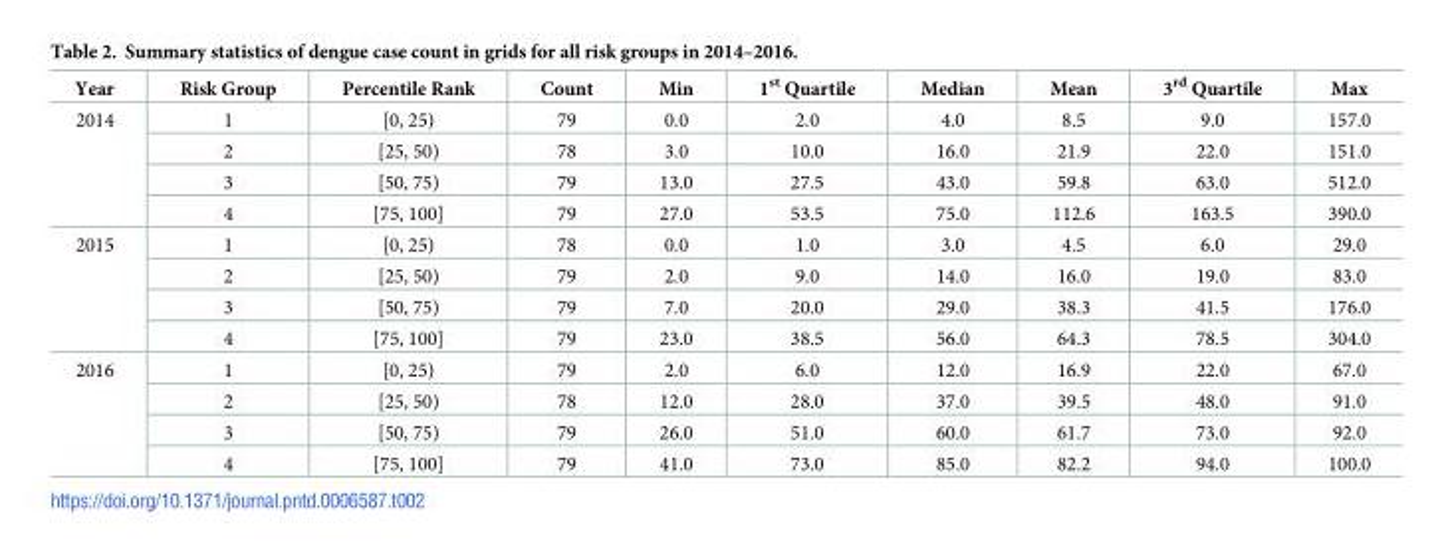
<table><thead><tr><td>Year</td><td>Risk Group</td><td>Percentile Rank</td><td>Count</td><td>Min</td><td>1<sup>st</sup> Quartile</td><td>Median</td><td>Mean</td><td>3<sup>rd</sup> Quartile</td><td>Max</td></tr></thead><tbody><tr><td rowspan="4">2014</td><td>1</td><td>[0, 25)</td><td>79</td><td>0.0</td><td>2.0</td><td>4.0</td><td>8.5</td><td>9.0</td><td>157.0</td></tr><tr><td>2</td><td>[25, 50)</td><td>78</td><td>3.0</td><td>10.0</td><td>16.0</td><td>21.9</td><td>22.0</td><td>151.0</td></tr><tr><td>3</td><td>[50, 75)</td><td>79</td><td>13.0</td><td>27.5</td><td>43.0</td><td>59.8</td><td>63.0</td><td>512.0</td></tr><tr><td>4</td><td>[75, 100]</td><td>79</td><td>27.0</td><td>53.5</td><td>75.0</td><td>112.6</td><td>163.5</td><td>390.0</td></tr><tr><td rowspan="4">2015</td><td>1</td><td>[0, 25)</td><td>78</td><td>0.0</td><td>1.0</td><td>3.0</td><td>4.5</td><td>6.0</td><td>29.0</td></tr><tr><td>2</td><td>[25, 50)</td><td>79</td><td>2.0</td><td>9.0</td><td>14.0</td><td>16.0</td><td>19.0</td><td>83.0</td></tr><tr><td>3</td><td>[50, 75)</td><td>79</td><td>7.0</td><td>20.0</td><td>29.0</td><td>38.3</td><td>41.5</td><td>176.0</td></tr><tr><td>4</td><td>[75, 100]</td><td>79</td><td>23.0</td><td>38.5</td><td>56.0</td><td>64.3</td><td>78.5</td><td>304.0</td></tr><tr><td rowspan="4">2016</td><td>1</td><td>[0, 25)</td><td>79</td><td>2.0</td><td>6.0</td><td>12.0</td><td>16.9</td><td>22.0</td><td>67.0</td></tr><tr><td>2</td><td>[25, 50)</td><td>78</td><td>12.0</td><td>28.0</td><td>37.0</td><td>39.5</td><td>48.0</td><td>91.0</td></tr><tr><td>3</td><td>[50, 75)</td><td>79</td><td>26.0</td><td>51.0</td><td>60.0</td><td>61.7</td><td>73.0</td><td>92.0</td></tr><tr><td>4</td><td>[75, 100]</td><td>79</td><td>41.0</td><td>73.0</td><td>85.0</td><td>82.2</td><td>94.0</td><td>100.0</td></tr></tbody></table>